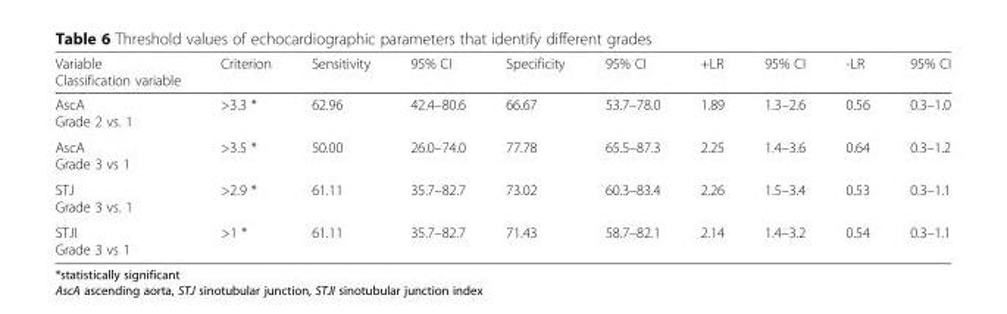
<table><thead><tr><td>Variable Classification variable</td><td>Criterion</td><td>Sensitivity</td><td>95% CI</td><td>Specificity</td><td>95% CI</td><td>+LR</td><td>95% CI</td><td>-LR</td><td>95% CI</td></tr></thead><tbody><tr><td>AscA Grade 2 vs. 1</td><td>&gt;3.3 *</td><td>62.96</td><td>42.4–80.6</td><td>66.67</td><td>53.7–78.0</td><td>1.89</td><td>1.3–2.6</td><td>0.56</td><td>0.3–1.0</td></tr><tr><td>AscA Grade 3 vs 1</td><td>&gt;3.5 *</td><td>50.00</td><td>26.0–74.0</td><td>77.78</td><td>65.5–87.3</td><td>2.25</td><td>1.4–3.6</td><td>0.64</td><td>0.3–1.2</td></tr><tr><td>STJ Grade 3 vs. 1</td><td>&gt;2.9 *</td><td>61.11</td><td>35.7–82.7</td><td>73.02</td><td>60.3–83.4</td><td>2.26</td><td>1.5–3.4</td><td>0.53</td><td>0.3–1.1</td></tr><tr><td>STJI Grade 3 vs 1</td><td>&gt;1 *</td><td>61.11</td><td>35.7–82.7</td><td>71.43</td><td>58.7–82.1</td><td>2.14</td><td>1.4–3.2</td><td>0.54</td><td>0.3–1.1</td></tr></tbody></table>